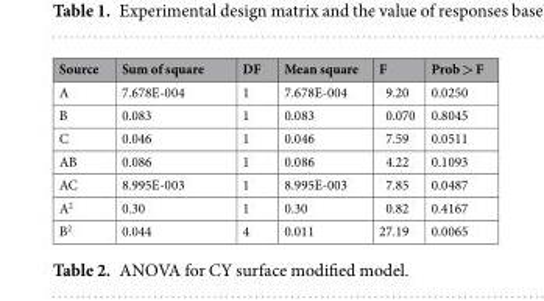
<table><thead><tr><td>Source</td><td>Sum of square</td><td>DF</td><td>Mean square</td><td>F</td><td>Prob &gt; F</td></tr></thead><tbody><tr><td>A</td><td>7.678E-004</td><td>1</td><td>7.678E-004</td><td>9.20</td><td>0.0250</td></tr><tr><td>B</td><td>0.083</td><td>1</td><td>0.083</td><td>0.070</td><td>0.8045</td></tr><tr><td>C</td><td>0.046</td><td>1</td><td>0.046</td><td>7.59</td><td>0.0511</td></tr><tr><td>AB</td><td>0.086</td><td>1</td><td>0.086</td><td>4.22</td><td>0.1093</td></tr><tr><td>AC</td><td>8.995E-003</td><td>1</td><td>8.995E-003</td><td>7.85</td><td>0.0487</td></tr><tr><td>A<sup>2</sup></td><td>0.30</td><td>1</td><td>0.30</td><td>0.82</td><td>0.4167</td></tr><tr><td>B<sup>2</sup></td><td>0.044</td><td>4</td><td>0.011</td><td>27.19</td><td>0.0065</td></tr></tbody></table>